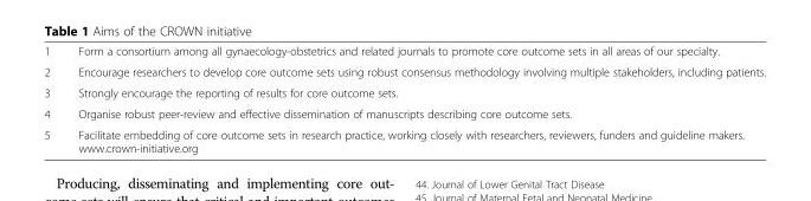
<table><tbody><tr><td>1</td><td>Form a consortium among all gynaecology-obstetrics and related journals to promote core outcome sets in all areas of our specialty.</td></tr><tr><td>2</td><td>Encourage researchers to develop core outcome sets using robust consensus methodology involving multiple stakeholders, including patients.</td></tr><tr><td>3</td><td>Strongly encourage the reporting of results for core outcome sets.</td></tr><tr><td>4</td><td>Organise robust peer-review and effective dissemination of manuscripts describing core outcome sets.</td></tr><tr><td>5</td><td>Facilitate embedding of core outcome sets in research practice, working closely with researchers, reviewers, funders and guideline makers. www.crown-initiative.org</td></tr></tbody></table>